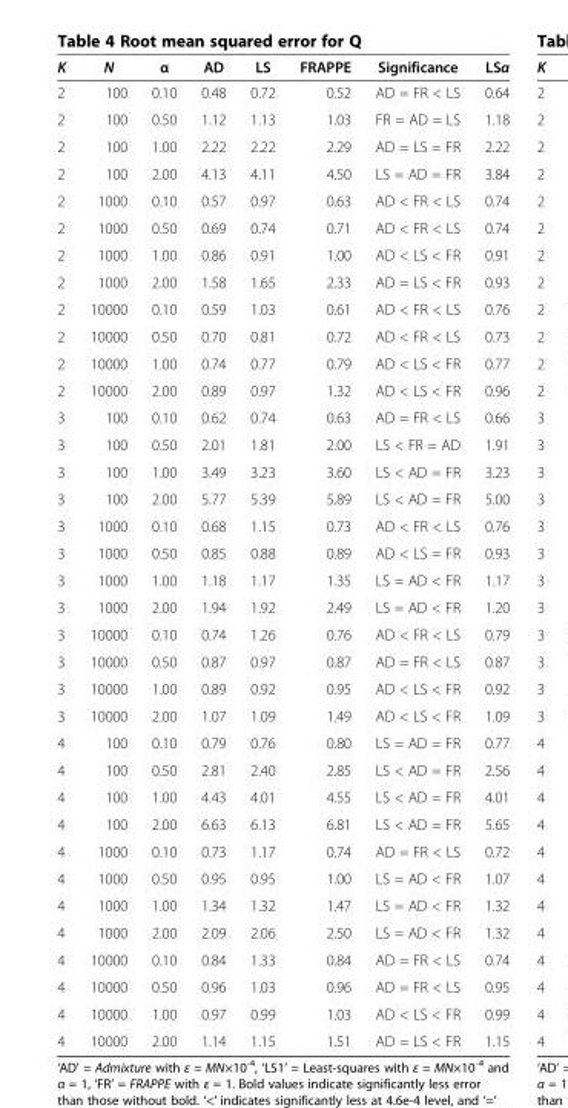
<table><thead><tr><td>K</td><td>N</td><td>α</td><td>AD</td><td>LS</td><td>FRAPPE</td><td>Significance</td><td>LSα</td></tr></thead><tbody><tr><td>2</td><td>100</td><td>0.10</td><td>0.48</td><td>0.72</td><td>0.52</td><td>AD = FR &lt; LS</td><td>0.64</td></tr><tr><td>2</td><td>100</td><td>0.50</td><td>1.12</td><td>1.13</td><td>1.03</td><td>FR = AD = LS</td><td>1.18</td></tr><tr><td>2</td><td>100</td><td>1.00</td><td>2.22</td><td>2.22</td><td>2.29</td><td>AD = LS = FR</td><td>2.22</td></tr><tr><td>2</td><td>100</td><td>2.00</td><td>4.13</td><td>4.11</td><td>4.50</td><td>LS = AD = FR</td><td>3.84</td></tr><tr><td>2</td><td>1000</td><td>0.10</td><td>0.57</td><td>0.97</td><td>0.63</td><td>AD &lt; FR &lt; LS</td><td>0.74</td></tr><tr><td>2</td><td>1000</td><td>0.50</td><td>0.69</td><td>0.74</td><td>0.71</td><td>AD &lt; FR &lt; LS</td><td>0.74</td></tr><tr><td>2</td><td>1000</td><td>1.00</td><td>0.86</td><td>0.91</td><td>1.00</td><td>AD &lt; LS &lt; FR</td><td>0.91</td></tr><tr><td>2</td><td>1000</td><td>2.00</td><td>1.58</td><td>1.65</td><td>2.33</td><td>AD = LS &lt; FR</td><td>0.93</td></tr><tr><td>2</td><td>10000</td><td>0.10</td><td>0.59</td><td>1.03</td><td>0.61</td><td>AD &lt; FR &lt; LS</td><td>0.76</td></tr><tr><td>2</td><td>10000</td><td>0.50</td><td>0.70</td><td>0.81</td><td>0.72</td><td>AD &lt; FR &lt; LS</td><td>0.73</td></tr><tr><td>2</td><td>10000</td><td>1.00</td><td>0.74</td><td>0.77</td><td>0.79</td><td>AD &lt; LS &lt; FR</td><td>0.77</td></tr><tr><td>2</td><td>10000</td><td>2.00</td><td>0.89</td><td>0.97</td><td>1.32</td><td>AD &lt; LS &lt; FR</td><td>0.96</td></tr><tr><td>3</td><td>100</td><td>0.10</td><td>0.62</td><td>0.74</td><td>0.63</td><td>AD = FR &lt; LS</td><td>0.66</td></tr><tr><td>3</td><td>100</td><td>0.50</td><td>2.01</td><td>1.81</td><td>2.00</td><td>LS &lt; FR = AD</td><td>1.91</td></tr><tr><td>3</td><td>100</td><td>1.00</td><td>3.49</td><td>3.23</td><td>3.60</td><td>LS &lt; AD = FR</td><td>3.23</td></tr><tr><td>3</td><td>100</td><td>2.00</td><td>5.77</td><td>5.39</td><td>5.89</td><td>LS &lt; AD = FR</td><td>5.00</td></tr><tr><td>3</td><td>1000</td><td>0.10</td><td>0.68</td><td>1.15</td><td>0.73</td><td>AD &lt; FR &lt; LS</td><td>0.76</td></tr><tr><td>3</td><td>1000</td><td>0.50</td><td>0.85</td><td>0.88</td><td>0.89</td><td>AD &lt; LS = FR</td><td>0.93</td></tr><tr><td>3</td><td>1000</td><td>1.00</td><td>1.18</td><td>1.17</td><td>1.35</td><td>LS = AD &lt; FR</td><td>1.17</td></tr><tr><td>3</td><td>1000</td><td>2.00</td><td>1.94</td><td>1.92</td><td>2.49</td><td>LS = AD &lt; FR</td><td>1.20</td></tr><tr><td>3</td><td>10000</td><td>0.10</td><td>0.74</td><td>1.26</td><td>0.76</td><td>AD &lt; FR &lt; LS</td><td>0.79</td></tr><tr><td>3</td><td>10000</td><td>0.50</td><td>0.87</td><td>0.97</td><td>0.87</td><td>AD = FR &lt; LS</td><td>0.87</td></tr><tr><td>3</td><td>10000</td><td>1.00</td><td>0.89</td><td>0.92</td><td>0.95</td><td>AD &lt; LS &lt; FR</td><td>0.92</td></tr><tr><td>3</td><td>10000</td><td>2.00</td><td>1.07</td><td>1.09</td><td>1.49</td><td>AD &lt; LS &lt; FR</td><td>1.09</td></tr><tr><td>4</td><td>100</td><td>0.10</td><td>0.79</td><td>0.76</td><td>0.80</td><td>LS = AD = FR</td><td>0.77</td></tr><tr><td>4</td><td>100</td><td>0.50</td><td>2.81</td><td>2.40</td><td>2.85</td><td>LS &lt; AD = FR</td><td>2.56</td></tr><tr><td>4</td><td>100</td><td>1.00</td><td>4.43</td><td>4.01</td><td>4.55</td><td>LS &lt; AD = FR</td><td>4.01</td></tr><tr><td>4</td><td>100</td><td>2.00</td><td>6.63</td><td>6.13</td><td>6.81</td><td>LS &lt; AD = FR</td><td>5.65</td></tr><tr><td>4</td><td>1000</td><td>0.10</td><td>0.73</td><td>1.17</td><td>0.74</td><td>AD = FR &lt; LS</td><td>0.72</td></tr><tr><td>4</td><td>1000</td><td>0.50</td><td>0.95</td><td>0.95</td><td>1.00</td><td>LS = AD &lt; FR</td><td>1.07</td></tr><tr><td>4</td><td>1000</td><td>1.00</td><td>1.34</td><td>1.32</td><td>1.47</td><td>LS = AD &lt; FR</td><td>1.32</td></tr><tr><td>4</td><td>1000</td><td>2.00</td><td>2.09</td><td>2.06</td><td>2.50</td><td>LS = AD &lt; FR</td><td>1.32</td></tr><tr><td>4</td><td>10000</td><td>0.10</td><td>0.84</td><td>1.33</td><td>0.84</td><td>AD = FR &lt; LS</td><td>0.74</td></tr><tr><td>4</td><td>10000</td><td>0.50</td><td>0.96</td><td>1.03</td><td>0.96</td><td>AD = FR &lt; LS</td><td>0.95</td></tr><tr><td>4</td><td>10000</td><td>1.00</td><td>0.97</td><td>0.99</td><td>1.03</td><td>AD &lt; LS &lt; FR</td><td>0.99</td></tr><tr><td>4</td><td>10000</td><td>2.00</td><td>1.14</td><td>1.15</td><td>1.51</td><td>AD = LS &lt; FR</td><td>1.15</td></tr></tbody></table>